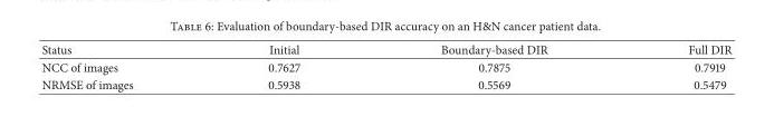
<table><thead><tr><td>Status</td><td>Initial</td><td>Boundary-based DIR</td><td>Full DIR</td></tr></thead><tbody><tr><td>NCC of images</td><td>0.7627</td><td>0.7875</td><td>0.7919</td></tr><tr><td>NRMSE of images</td><td>0.5938</td><td>0.5569</td><td>0.5479</td></tr></tbody></table>